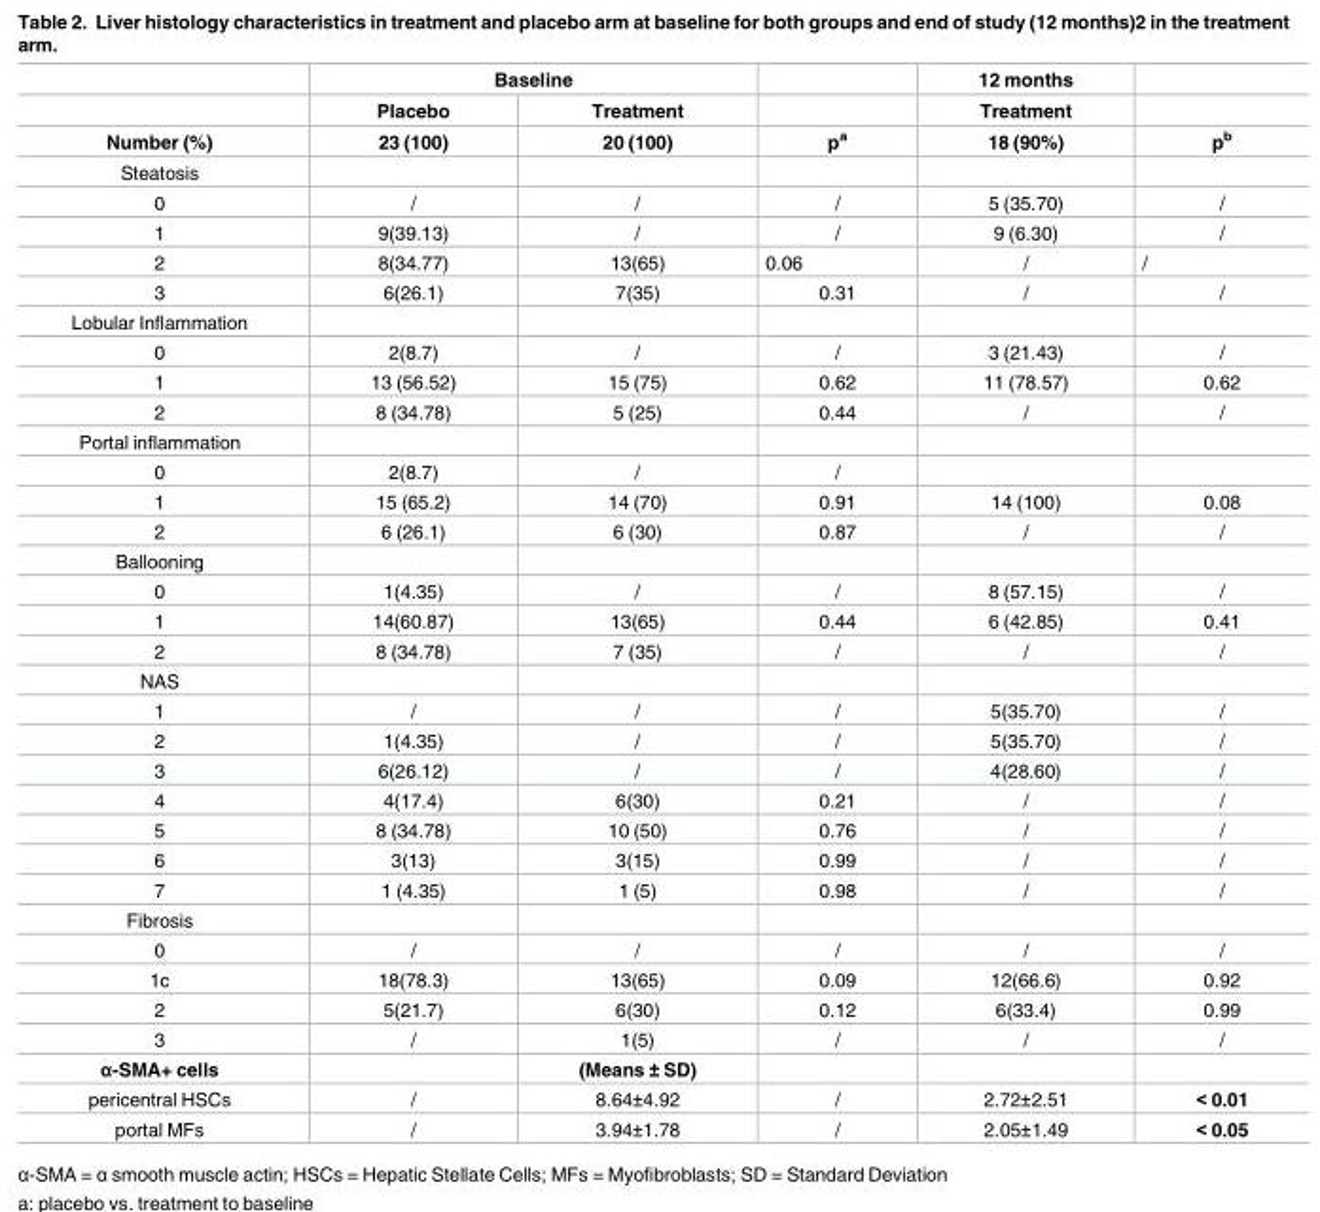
<table><thead><tr><td rowspan="3">Number (%)</td><td colspan="2">Baseline</td><td rowspan="3">p<sup>a</sup></td><td rowspan="3">12 months Treatment 18 (90%)</td><td rowspan="3">p<sup>b</sup></td></tr><tr><td rowspan="2">Placebo 23 (100)</td><td rowspan="2">Treatment 20 (100)</td></tr><tr></tr></thead><tbody><tr><td colspan="6">Steatosis</td></tr><tr><td>0</td><td>/</td><td>/</td><td>/</td><td>5 (35.70)</td><td>/</td></tr><tr><td>1</td><td>9(39.13)</td><td>/</td><td>/</td><td>9 (6.30)</td><td>/</td></tr><tr><td>2</td><td>8(34.77)</td><td>13(65)</td><td>0.06</td><td>/</td><td>/</td></tr><tr><td>3</td><td>6(26.1)</td><td>7(35)</td><td>0.31</td><td>/</td><td>/</td></tr><tr><td colspan="6">Lobular Inflammation</td></tr><tr><td>0</td><td>2(8.7)</td><td>/</td><td>/</td><td>3 (21.43)</td><td>/</td></tr><tr><td>1</td><td>13 (56.52)</td><td>15 (75)</td><td>0.62</td><td>11 (78.57)</td><td>0.62</td></tr><tr><td>2</td><td>8 (34.78)</td><td>5 (25)</td><td>0.44</td><td>/</td><td>/</td></tr><tr><td colspan="6">Portal inflammation</td></tr><tr><td>0</td><td>2(8.7)</td><td>/</td><td>/</td><td></td><td></td></tr><tr><td>1</td><td>15 (65.2)</td><td>14 (70)</td><td>0.91</td><td>14 (100)</td><td>0.08</td></tr><tr><td>2</td><td>6 (26.1)</td><td>6 (30)</td><td>0.87</td><td>/</td><td>/</td></tr><tr><td colspan="6">Ballooning</td></tr><tr><td>0</td><td>1(4.35)</td><td>/</td><td>/</td><td>8 (57.15)</td><td>/</td></tr><tr><td>1</td><td>14(60.87)</td><td>13(65)</td><td>0.44</td><td>6 (42.85)</td><td>0.41</td></tr><tr><td>2</td><td>8 (34.78)</td><td>7 (35)</td><td>/</td><td>/</td><td>/</td></tr><tr><td colspan="6">NAS</td></tr><tr><td>1</td><td>/</td><td>/</td><td>/</td><td>5(35.70)</td><td>/</td></tr><tr><td>2</td><td>1(4.35)</td><td>/</td><td>/</td><td>5(35.70)</td><td>/</td></tr><tr><td>3</td><td>6(26.12)</td><td>/</td><td>/</td><td>4(28.60)</td><td>/</td></tr><tr><td>4</td><td>4(17.4)</td><td>6(30)</td><td>0.21</td><td>/</td><td>/</td></tr><tr><td>5</td><td>8 (34.78)</td><td>10 (50)</td><td>0.76</td><td>/</td><td>/</td></tr><tr><td>6</td><td>3(13)</td><td>3(15)</td><td>0.99</td><td>/</td><td>/</td></tr><tr><td>7</td><td>1 (4.35)</td><td>1 (5)</td><td>0.98</td><td>/</td><td>/</td></tr><tr><td colspan="6">Fibrosis</td></tr><tr><td>0</td><td>/</td><td>/</td><td>/</td><td>/</td><td>/</td></tr><tr><td>1c</td><td>18(78.3)</td><td>13(65)</td><td>0.09</td><td>12(66.6)</td><td>0.92</td></tr><tr><td>2</td><td>5(21.7)</td><td>6(30)</td><td>0.12</td><td>6(33.4)</td><td>0.99</td></tr><tr><td>3</td><td>/</td><td>1(5)</td><td>/</td><td>/</td><td>/</td></tr><tr><td>α-SMA+ cells</td><td></td><td>(Means ± SD)</td><td></td><td></td><td></td></tr><tr><td>pericentral HSCs</td><td>/</td><td>8.64±4.92</td><td>/</td><td>2.72±2.51</td><td>&lt; 0.01</td></tr><tr><td>portal MFs</td><td>/</td><td>3.94±1.78</td><td>/</td><td>2.05±1.49</td><td>&lt; 0.05</td></tr></tbody></table>